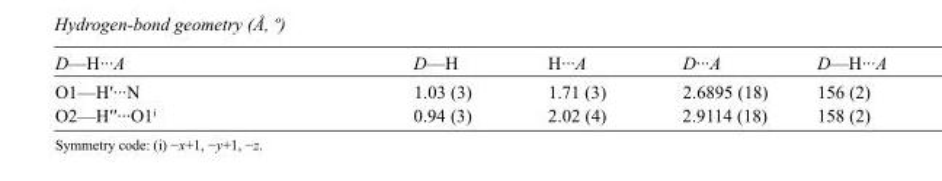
<table><tbody><tr><td>D—H···A</td><td>D—H</td><td>H···A</td><td>D···A</td><td>D—H···A</td></tr><tr><td>O1—H′···N</td><td>1.03 (3)</td><td>1.71 (3)</td><td>2.6895 (18)</td><td>156 (2)</td></tr><tr><td>O2—H′′···O1<sup>i</sup></td><td>0.94 (3)</td><td>2.02 (4)</td><td>2.9114 (18)</td><td>158 (2)</td></tr></tbody></table>